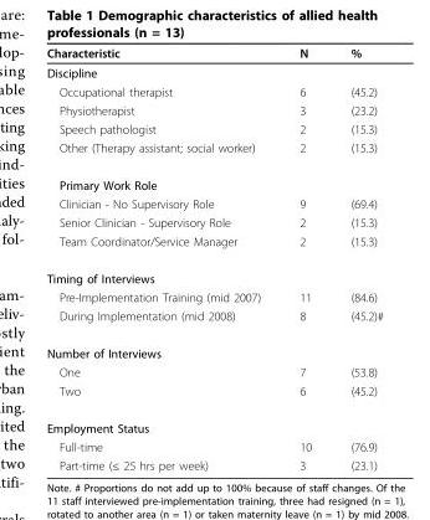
<table><thead><tr><td>Characteristic</td><td>N</td><td>%</td></tr></thead><tbody><tr><td colspan="3">Discipline</td></tr><tr><td>Occupational therapist</td><td>6</td><td>(45.2)</td></tr><tr><td>Physiotherapist</td><td>3</td><td>(23.2)</td></tr><tr><td>Speech pathologist</td><td>2</td><td>(15.3)</td></tr><tr><td>Other (Therapy assistant; social worker)</td><td>2</td><td>(15.3)</td></tr><tr><td colspan="3">Primary Work Role</td></tr><tr><td>Clinician - No Supervisory Role</td><td>9</td><td>(69.4)</td></tr><tr><td>Senior Clinician - Supervisory Role</td><td>2</td><td>(15.3)</td></tr><tr><td>Team Coordinator/Service Manager</td><td>2</td><td>(15.3)</td></tr><tr><td colspan="3">Timing of Interviews</td></tr><tr><td>Pre-Implementation Training (mid 2007)</td><td>11</td><td>(84.6)</td></tr><tr><td>During Implementation (mid 2008)</td><td>8</td><td>(45.2)#</td></tr><tr><td colspan="3">Number of Interviews</td></tr><tr><td>One</td><td>7</td><td>(53.8)</td></tr><tr><td>Two</td><td>6</td><td>(45.2)</td></tr><tr><td colspan="3">Employment Status</td></tr><tr><td>Full-time</td><td>10</td><td>(76.9)</td></tr><tr><td>Part-time (≤ 25 hrs per week)</td><td>3</td><td>(23.1)</td></tr></tbody></table>